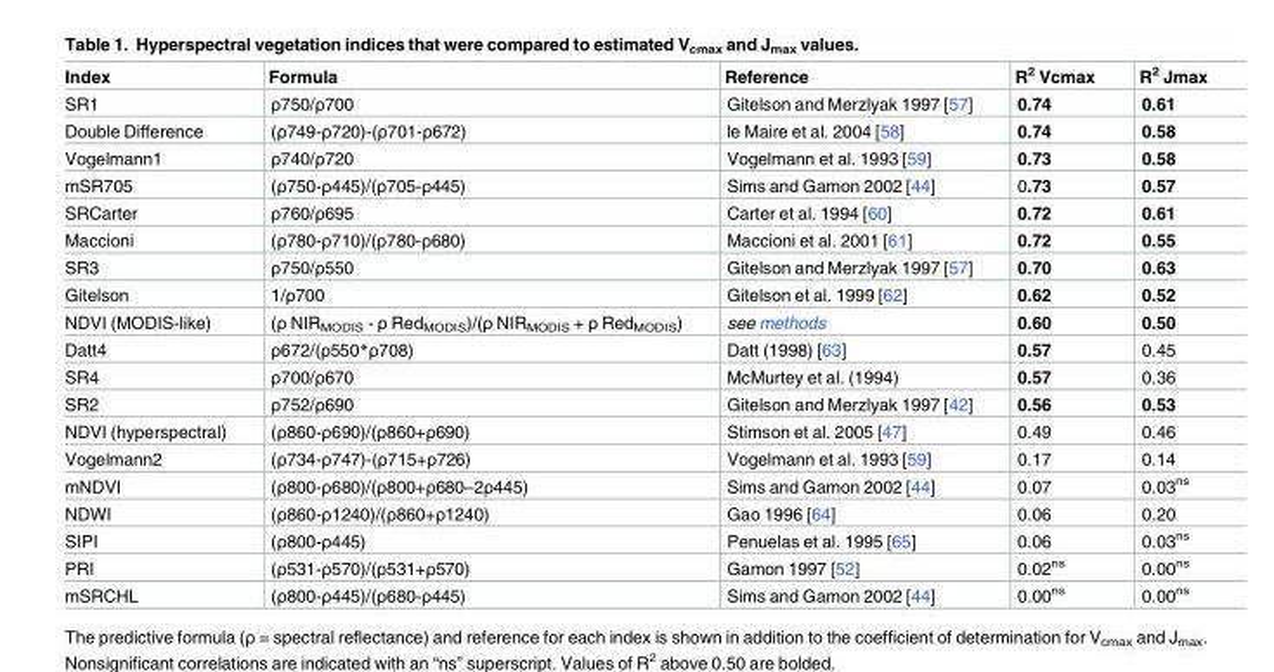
<table><thead><tr><td>Index</td><td>Formula</td><td>Reference</td><td>R<sup>2</sup> Vcmax</td><td>R<sup>2</sup> Jmax</td></tr></thead><tbody><tr><td>SR1</td><td>ρ750/ρ700</td><td>Gitelson and Merzlyak 1997 [57]</td><td>0.74</td><td>0.61</td></tr><tr><td>Double Difference</td><td>(ρ749-ρ720)-(ρ701-ρ672)</td><td>le Maire et al. 2004 [58]</td><td>0.74</td><td>0.58</td></tr><tr><td>Vogelmann1</td><td>ρ740/ρ720</td><td>Vogelmann et al. 1993 [59]</td><td>0.73</td><td>0.58</td></tr><tr><td>mSR705</td><td>(ρ750-ρ445)/(ρ705-ρ445)</td><td>Sims and Gamon 2002 [44]</td><td>0.73</td><td>0.57</td></tr><tr><td>SRCarter</td><td>ρ760/ρ695</td><td>Carter et al. 1994 [60]</td><td>0.72</td><td>0.61</td></tr><tr><td>Maccioni</td><td>(ρ780-ρ710)/(ρ780-ρ680)</td><td>Maccioni et al. 2001 [61]</td><td>0.72</td><td>0.55</td></tr><tr><td>SR3</td><td>ρ750/ρ550</td><td>Gitelson and Merzlyak 1997 [57]</td><td>0.70</td><td>0.63</td></tr><tr><td>Gitelson</td><td>1/ρ700</td><td>Gitelson et al. 1999 [62]</td><td>0.62</td><td>0.52</td></tr><tr><td>NDVI (MODIS-like)</td><td>(ρ NIR<sub>MODIS</sub> - ρ Red<sub>MODIS</sub>)/(ρ NIR<sub>MODIS</sub> + ρ Red<sub>MODIS</sub>)</td><td>see methods</td><td>0.60</td><td>0.50</td></tr><tr><td>Datt4</td><td>ρ672/(ρ550*ρ708)</td><td>Datt (1998) [63]</td><td>0.57</td><td>0.45</td></tr><tr><td>SR4</td><td>ρ700/ρ670</td><td>McMurtey et al. (1994)</td><td>0.57</td><td>0.36</td></tr><tr><td>SR2</td><td>ρ752/ρ690</td><td>Gitelson and Merzlyak 1997 [42]</td><td>0.56</td><td>0.53</td></tr><tr><td>NDVI (hyperspectral)</td><td>(ρ860-ρ690)/(ρ860+ρ690)</td><td>Stimson et al. 2005 [47]</td><td>0.49</td><td>0.46</td></tr><tr><td>Vogelmann2</td><td>(ρ734-ρ747)-(ρ715+ρ726)</td><td>Vogelmann et al. 1993 [59]</td><td>0.17</td><td>0.14</td></tr><tr><td>mNDVI</td><td>(ρ800-ρ680)/(ρ800+ρ680–2ρ445)</td><td>Sims and Gamon 2002 [44]</td><td>0.07</td><td>0.03<sup>ns</sup></td></tr><tr><td>NDWI</td><td>(ρ860-ρ1240)/(ρ860+ρ1240)</td><td>Gao 1996 [64]</td><td>0.06</td><td>0.20</td></tr><tr><td>SIPI</td><td>(ρ800-ρ445)</td><td>Penuelas et al. 1995 [65]</td><td>0.06</td><td>0.03<sup>ns</sup></td></tr><tr><td>PRI</td><td>(ρ531-ρ570)/(ρ531+ρ570)</td><td>Gamon 1997 [52]</td><td>0.02<sup>ns</sup></td><td>0.00<sup>ns</sup></td></tr><tr><td>mSRCHL</td><td>(ρ800-ρ445)/(ρ680-ρ445)</td><td>Sims and Gamon 2002 [44]</td><td>0.00<sup>ns</sup></td><td>0.00<sup>ns</sup></td></tr></tbody></table>